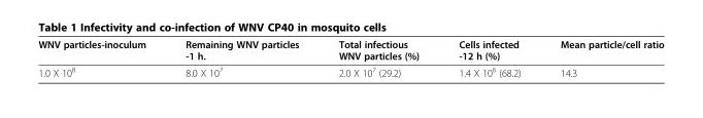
<table><thead><tr><td>WNV particles-inoculum</td><td>Remaining WNV particles -1 h.</td><td>Total infectious WNV particles (%)</td><td>Cells infected -12 h (%)</td><td>Mean particle/cell ratio</td></tr></thead><tbody><tr><td>1.0 X 10<sup>8</sup></td><td>8.0 X 10<sup>7</sup></td><td>2.0 X 10<sup>7</sup> (29.2)</td><td>1.4 X 10<sup>6</sup> (68.2)</td><td>14.3</td></tr></tbody></table>